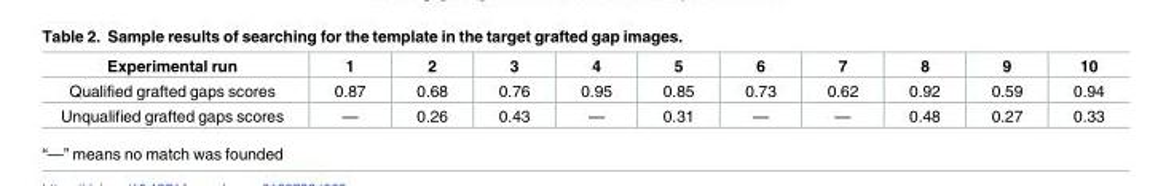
<table><thead><tr><td>Experimental run</td><td>1</td><td>2</td><td>3</td><td>4</td><td>5</td><td>6</td><td>7</td><td>8</td><td>9</td><td>10</td></tr></thead><tbody><tr><td>Qualified grafted gaps scores</td><td>0.87</td><td>0.68</td><td>0.76</td><td>0.95</td><td>0.85</td><td>0.73</td><td>0.62</td><td>0.92</td><td>0.59</td><td>0.94</td></tr><tr><td>Unqualified grafted gaps scores</td><td>—</td><td>0.26</td><td>0.43</td><td>—</td><td>0.31</td><td>—</td><td>—</td><td>0.48</td><td>0.27</td><td>0.33</td></tr></tbody></table>